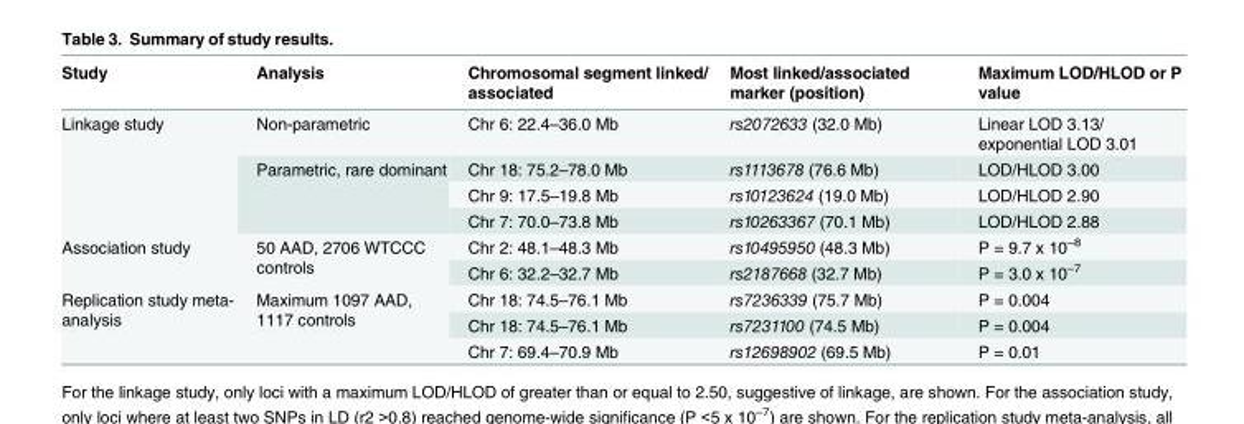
<table><thead><tr><td>Study</td><td>Analysis</td><td>Chromosomal segment linked/ associated</td><td>Most linked/associated marker (position)</td><td>Maximum LOD/HLOD or P value</td></tr></thead><tbody><tr><td rowspan="4">Linkage study</td><td>Non-parametric</td><td>Chr 6: 22.4–36.0 Mb</td><td>rs2072633 (32.0 Mb)</td><td>Linear LOD 3.13/ exponential LOD 3.01</td></tr><tr><td rowspan="3">Parametric, rare dominant</td><td>Chr 18: 75.2–78.0 Mb</td><td>rs1113678 (76.6 Mb)</td><td>LOD/HLOD 3.00</td></tr><tr><td>Chr 9: 17.5–19.8 Mb</td><td>rs10123624 (19.0 Mb)</td><td>LOD/HLOD 2.90</td></tr><tr><td>Chr 7: 70.0–73.8 Mb</td><td>rs10263367 (70.1 Mb)</td><td>LOD/HLOD 2.88</td></tr><tr><td rowspan="2">Association study</td><td rowspan="2">50 AAD, 2706 WTCCC controls</td><td>Chr 2: 48.1–48.3 Mb</td><td>rs10495950 (48.3 Mb)</td><td>P = 9.7 x 10<sup>–8</sup></td></tr><tr><td>Chr 6: 32.2–32.7 Mb</td><td>rs2187668 (32.7 Mb)</td><td>P = 3.0 x 10<sup>–7</sup></td></tr><tr><td rowspan="3">Replication study meta- analysis</td><td rowspan="3">Maximum 1097 AAD, 1117 controls</td><td>Chr 18: 74.5–76.1 Mb</td><td>rs7236339 (75.7 Mb)</td><td>P = 0.004</td></tr><tr><td>Chr 18: 74.5–76.1 Mb</td><td>rs7231100 (74.5 Mb)</td><td>P = 0.004</td></tr><tr><td>Chr 7: 69.4–70.9 Mb</td><td>rs12698902 (69.5 Mb)</td><td>P = 0.01</td></tr></tbody></table>